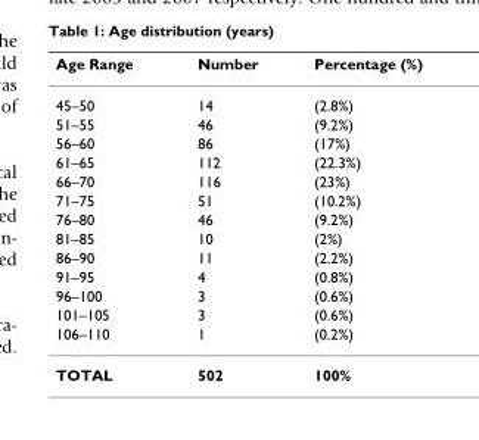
<table><thead><tr><td>Age Range</td><td>Number</td><td>Percentage (%)</td></tr></thead><tbody><tr><td>45–50</td><td>14</td><td>(2.8%)</td></tr><tr><td>51–55</td><td>46</td><td>(9.2%)</td></tr><tr><td>56–60</td><td>86</td><td>(17%)</td></tr><tr><td>61–65</td><td>112</td><td>(22.3%)</td></tr><tr><td>66–70</td><td>116</td><td>(23%)</td></tr><tr><td>71–75</td><td>51</td><td>(10.2%)</td></tr><tr><td>76–80</td><td>46</td><td>(9.2%)</td></tr><tr><td>81–85</td><td>10</td><td>(2%)</td></tr><tr><td>86–90</td><td>11</td><td>(2.2%)</td></tr><tr><td>91–95</td><td>4</td><td>(0.8%)</td></tr><tr><td>96–100</td><td>3</td><td>(0.6%)</td></tr><tr><td>101–105</td><td>3</td><td>(0.6%)</td></tr><tr><td>106–110</td><td>1</td><td>(0.2%)</td></tr><tr><td>TOTAL</td><td>502</td><td>100%</td></tr></tbody></table>